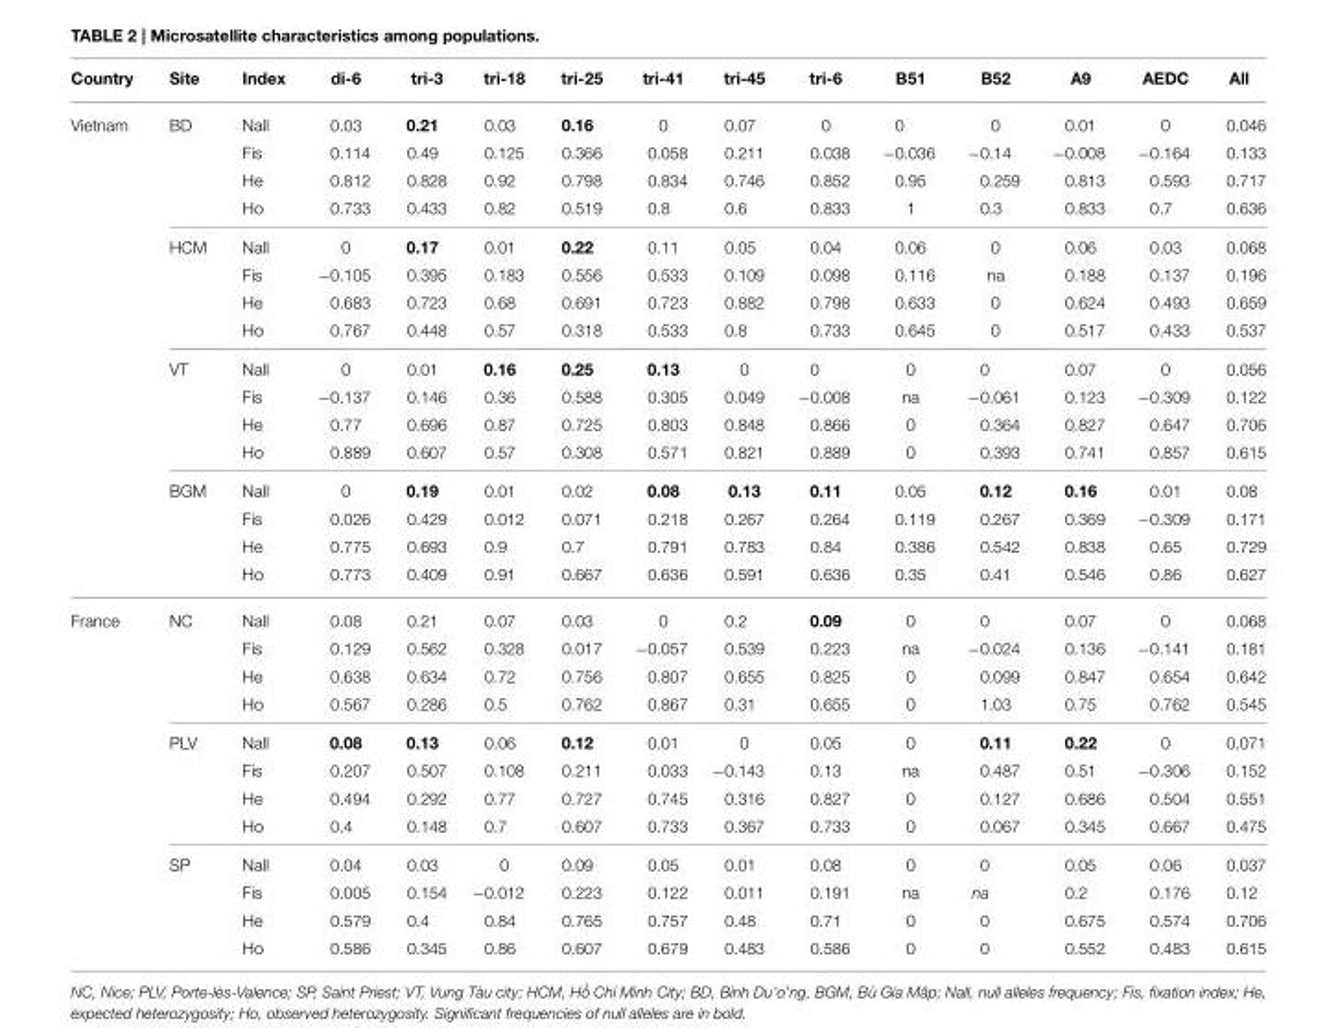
<table><thead><tr><td>Country</td><td>Site</td><td>Index</td><td>di-6</td><td>tri-3</td><td>tri-18</td><td>tri-25</td><td>tri-41</td><td>tri-45</td><td>tri-6</td><td>B51</td><td>B52</td><td>A9</td><td>AEDC</td><td>All</td></tr></thead><tbody><tr><td rowspan="16">Vietnam</td><td>BD</td><td>Nall</td><td>0.03</td><td>0.21</td><td>0.03</td><td>0.16</td><td>0</td><td>0.07</td><td>0</td><td>0</td><td>0</td><td>0.01</td><td>0</td><td>0.046</td></tr><tr><td></td><td>Fis</td><td>0.114</td><td>0.49</td><td>0.125</td><td>0.366</td><td>0.058</td><td>0.211</td><td>0.038</td><td>−0.036</td><td>−0.14</td><td>−0.008</td><td>−0.164</td><td>0.133</td></tr><tr><td></td><td>He</td><td>0.812</td><td>0.828</td><td>0.92</td><td>0.798</td><td>0.834</td><td>0.746</td><td>0.852</td><td>0.95</td><td>0.259</td><td>0.813</td><td>0.593</td><td>0.717</td></tr><tr><td></td><td>Ho</td><td>0.733</td><td>0.433</td><td>0.82</td><td>0.519</td><td>0.8</td><td>0.6</td><td>0.833</td><td>1</td><td>0.3</td><td>0.833</td><td>0.7</td><td>0.636</td></tr><tr><td>HCM</td><td>Nall</td><td>0</td><td>0.17</td><td>0.01</td><td>0.22</td><td>0.11</td><td>0.05</td><td>0.04</td><td>0.06</td><td>0</td><td>0.06</td><td>0.03</td><td>0.068</td></tr><tr><td></td><td>Fis</td><td>−0.105</td><td>0.395</td><td>0.183</td><td>0.556</td><td>0.533</td><td>0.109</td><td>0.098</td><td>0.116</td><td>na</td><td>0.188</td><td>0.137</td><td>0.196</td></tr><tr><td></td><td>He</td><td>0.683</td><td>0.723</td><td>0.68</td><td>0.691</td><td>0.723</td><td>0.882</td><td>0.798</td><td>0.633</td><td>0</td><td>0.624</td><td>0.493</td><td>0.659</td></tr><tr><td></td><td>Ho</td><td>0.767</td><td>0.448</td><td>0.57</td><td>0.318</td><td>0.533</td><td>0.8</td><td>0.733</td><td>0.645</td><td>0</td><td>0.517</td><td>0.433</td><td>0.537</td></tr><tr><td>VT</td><td>Nall</td><td>0</td><td>0.01</td><td>0.16</td><td>0.25</td><td>0.13</td><td>0</td><td>0</td><td>0</td><td>0</td><td>0.07</td><td>0</td><td>0.056</td></tr><tr><td></td><td>Fis</td><td>−0.137</td><td>0.146</td><td>0.36</td><td>0.588</td><td>0.305</td><td>0.049</td><td>−0.008</td><td>na</td><td>−0.061</td><td>0.123</td><td>−0.309</td><td>0.122</td></tr><tr><td></td><td>He</td><td>0.77</td><td>0.696</td><td>0.87</td><td>0.725</td><td>0.803</td><td>0.848</td><td>0.866</td><td>0</td><td>0.364</td><td>0.827</td><td>0.647</td><td>0.706</td></tr><tr><td></td><td>Ho</td><td>0.889</td><td>0.607</td><td>0.57</td><td>0.308</td><td>0.571</td><td>0.821</td><td>0.889</td><td>0</td><td>0.393</td><td>0.741</td><td>0.857</td><td>0.615</td></tr><tr><td>BGM</td><td>Nall</td><td>0</td><td>0.19</td><td>0.01</td><td>0.02</td><td>0.08</td><td>0.13</td><td>0.11</td><td>0.05</td><td>0.12</td><td>0.16</td><td>0.01</td><td>0.08</td></tr><tr><td></td><td>Fis</td><td>0.026</td><td>0.429</td><td>0.012</td><td>0.071</td><td>0.218</td><td>0.267</td><td>0.264</td><td>0.119</td><td>0.267</td><td>0.369</td><td>−0.309</td><td>0.171</td></tr><tr><td></td><td>He</td><td>0.775</td><td>0.693</td><td>0.9</td><td>0.7</td><td>0.791</td><td>0.783</td><td>0.84</td><td>0.386</td><td>0.542</td><td>0.838</td><td>0.65</td><td>0.729</td></tr><tr><td></td><td>Ho</td><td>0.773</td><td>0.409</td><td>0.91</td><td>0.667</td><td>0.636</td><td>0.591</td><td>0.636</td><td>0.35</td><td>0.41</td><td>0.546</td><td>0.86</td><td>0.627</td></tr><tr><td rowspan="12">France</td><td>NC</td><td>Nall</td><td>0.08</td><td>0.21</td><td>0.07</td><td>0.03</td><td>0</td><td>0.2</td><td>0.09</td><td>0</td><td>0</td><td>0.07</td><td>0</td><td>0.068</td></tr><tr><td></td><td>Fis</td><td>0.129</td><td>0.562</td><td>0.328</td><td>0.017</td><td>−0.057</td><td>0.539</td><td>0.223</td><td>na</td><td>−0.024</td><td>0.136</td><td>−0.141</td><td>0.181</td></tr><tr><td></td><td>He</td><td>0.638</td><td>0.634</td><td>0.72</td><td>0.756</td><td>0.807</td><td>0.655</td><td>0.825</td><td>0</td><td>0.099</td><td>0.847</td><td>0.654</td><td>0.642</td></tr><tr><td></td><td>Ho</td><td>0.567</td><td>0.286</td><td>0.5</td><td>0.762</td><td>0.867</td><td>0.31</td><td>0.655</td><td>0</td><td>1.03</td><td>0.75</td><td>0.762</td><td>0.545</td></tr><tr><td>PLV</td><td>Nall</td><td>0.08</td><td>0.13</td><td>0.06</td><td>0.12</td><td>0.01</td><td>0</td><td>0.05</td><td>0</td><td>0.11</td><td>0.22</td><td>0</td><td>0.071</td></tr><tr><td></td><td>Fis</td><td>0.207</td><td>0.507</td><td>0.108</td><td>0.211</td><td>0.033</td><td>−0.143</td><td>0.13</td><td>na</td><td>0.487</td><td>0.51</td><td>−0.306</td><td>0.152</td></tr><tr><td></td><td>He</td><td>0.494</td><td>0.292</td><td>0.77</td><td>0.727</td><td>0.745</td><td>0.316</td><td>0.827</td><td>0</td><td>0.127</td><td>0.686</td><td>0.504</td><td>0.551</td></tr><tr><td></td><td>Ho</td><td>0.4</td><td>0.148</td><td>0.7</td><td>0.607</td><td>0.733</td><td>0.367</td><td>0.733</td><td>0</td><td>0.067</td><td>0.345</td><td>0.667</td><td>0.475</td></tr><tr><td>SP</td><td>Nall</td><td>0.04</td><td>0.03</td><td>0</td><td>0.09</td><td>0.05</td><td>0.01</td><td>0.08</td><td>0</td><td>0</td><td>0.05</td><td>0.06</td><td>0.037</td></tr><tr><td></td><td>Fis</td><td>0.005</td><td>0.154</td><td>−0.012</td><td>0.223</td><td>0.122</td><td>0.011</td><td>0.191</td><td>na</td><td>na</td><td>0.2</td><td>0.176</td><td>0.12</td></tr><tr><td></td><td>He</td><td>0.579</td><td>0.4</td><td>0.84</td><td>0.765</td><td>0.757</td><td>0.48</td><td>0.71</td><td>0</td><td>0</td><td>0.675</td><td>0.574</td><td>0.706</td></tr><tr><td></td><td>Ho</td><td>0.586</td><td>0.345</td><td>0.86</td><td>0.607</td><td>0.679</td><td>0.483</td><td>0.586</td><td>0</td><td>0</td><td>0.552</td><td>0.483</td><td>0.615</td></tr></tbody></table>